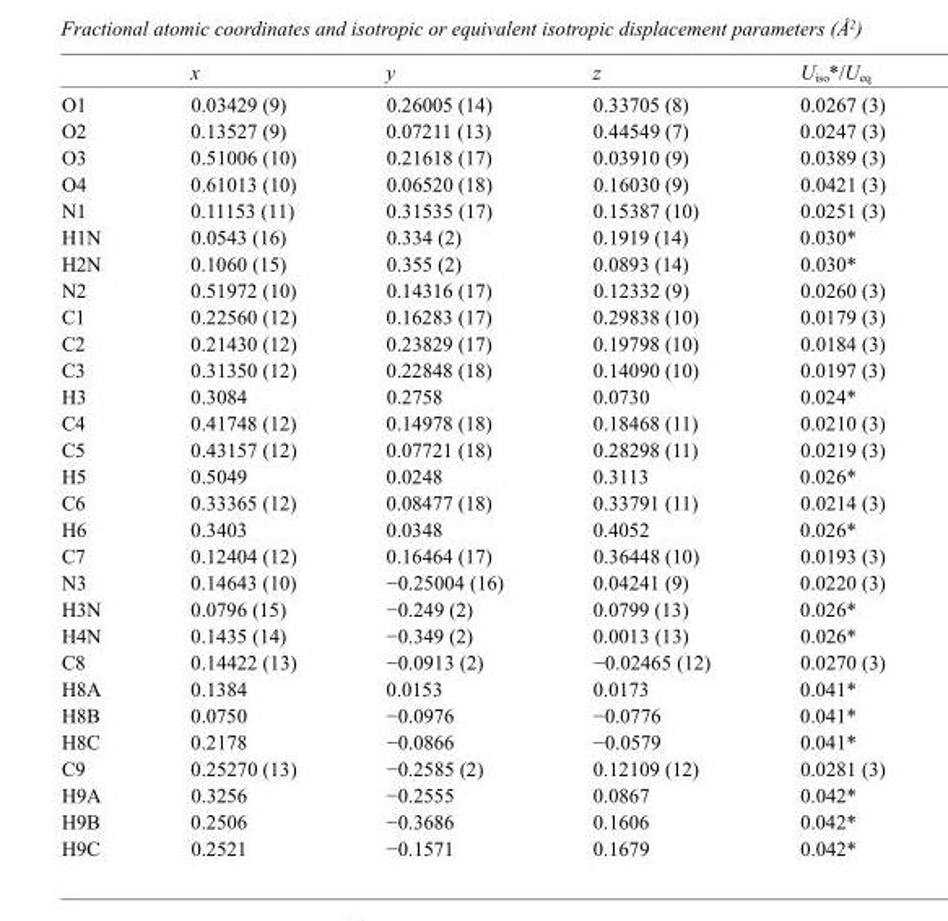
<table><thead><tr><td></td><td>x</td><td>y</td><td>z</td><td>U<sub>iso</sub>*/U<sub>eq</sub></td></tr></thead><tbody><tr><td>O1</td><td>0.03429 (9)</td><td>0.26005 (14)</td><td>0.33705 (8)</td><td>0.0267 (3)</td></tr><tr><td>O2</td><td>0.13527 (9)</td><td>0.07211 (13)</td><td>0.44549 (7)</td><td>0.0247 (3)</td></tr><tr><td>O3</td><td>0.51006 (10)</td><td>0.21618 (17)</td><td>0.03910 (9)</td><td>0.0389 (3)</td></tr><tr><td>O4</td><td>0.61013 (10)</td><td>0.06520 (18)</td><td>0.16030 (9)</td><td>0.0421 (3)</td></tr><tr><td>N1</td><td>0.11153 (11)</td><td>0.31535 (17)</td><td>0.15387 (10)</td><td>0.0251 (3)</td></tr><tr><td>H1N</td><td>0.0543 (16)</td><td>0.334 (2)</td><td>0.1919 (14)</td><td>0.030*</td></tr><tr><td>H2N</td><td>0.1060 (15)</td><td>0.355 (2)</td><td>0.0893 (14)</td><td>0.030*</td></tr><tr><td>N2</td><td>0.51972 (10)</td><td>0.14316 (17)</td><td>0.12332 (9)</td><td>0.0260 (3)</td></tr><tr><td>C1</td><td>0.22560 (12)</td><td>0.16283 (17)</td><td>0.29838 (10)</td><td>0.0179 (3)</td></tr><tr><td>C2</td><td>0.21430 (12)</td><td>0.23829 (17)</td><td>0.19798 (10)</td><td>0.0184 (3)</td></tr><tr><td>C3</td><td>0.31350 (12)</td><td>0.22848 (18)</td><td>0.14090 (10)</td><td>0.0197 (3)</td></tr><tr><td>H3</td><td>0.3084</td><td>0.2758</td><td>0.0730</td><td>0.024*</td></tr><tr><td>C4</td><td>0.41748 (12)</td><td>0.14978 (18)</td><td>0.18468 (11)</td><td>0.0210 (3)</td></tr><tr><td>C5</td><td>0.43157 (12)</td><td>0.07721 (18)</td><td>0.28298 (11)</td><td>0.0219 (3)</td></tr><tr><td>H5</td><td>0.5049</td><td>0.0248</td><td>0.3113</td><td>0.026*</td></tr><tr><td>C6</td><td>0.33365 (12)</td><td>0.08477 (18)</td><td>0.33791 (11)</td><td>0.0214 (3)</td></tr><tr><td>H6</td><td>0.3403</td><td>0.0348</td><td>0.4052</td><td>0.026*</td></tr><tr><td>C7</td><td>0.12404 (12)</td><td>0.16464 (17)</td><td>0.36448 (10)</td><td>0.0193 (3)</td></tr><tr><td>N3</td><td>0.14643 (10)</td><td>−0.25004 (16)</td><td>0.04241 (9)</td><td>0.0220 (3)</td></tr><tr><td>H3N</td><td>0.0796 (15)</td><td>−0.249 (2)</td><td>0.0799 (13)</td><td>0.026*</td></tr><tr><td>H4N</td><td>0.1435 (14)</td><td>−0.349 (2)</td><td>0.0013 (13)</td><td>0.026*</td></tr><tr><td>C8</td><td>0.14422 (13)</td><td>−0.0913 (2)</td><td>−0.02465 (12)</td><td>0.0270 (3)</td></tr><tr><td>H8A</td><td>0.1384</td><td>0.0153</td><td>0.0173</td><td>0.041*</td></tr><tr><td>H8B</td><td>0.0750</td><td>−0.0976</td><td>−0.0776</td><td>0.041*</td></tr><tr><td>H8C</td><td>0.2178</td><td>−0.0866</td><td>−0.0579</td><td>0.041*</td></tr><tr><td>C9</td><td>0.25270 (13)</td><td>−0.2585 (2)</td><td>0.12109 (12)</td><td>0.0281 (3)</td></tr><tr><td>H9A</td><td>0.3256</td><td>−0.2555</td><td>0.0867</td><td>0.042*</td></tr><tr><td>H9B</td><td>0.2506</td><td>−0.3686</td><td>0.1606</td><td>0.042*</td></tr><tr><td>H9C</td><td>0.2521</td><td>−0.1571</td><td>0.1679</td><td>0.042*</td></tr></tbody></table>